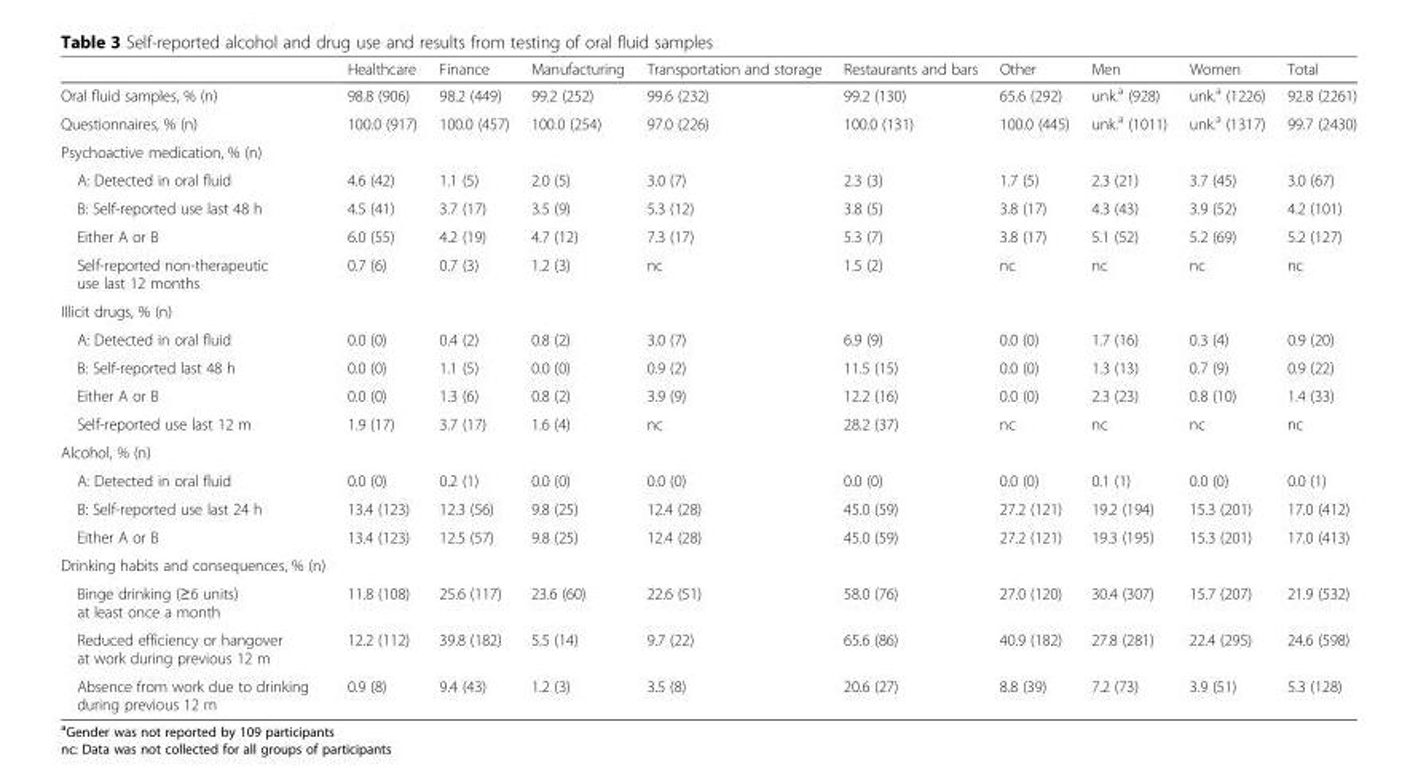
<table><thead><tr><td></td><td>Healthcare</td><td>Finance</td><td>Manufacturing</td><td>Transportation and storage</td><td>Restaurants and bars</td><td>Other</td><td>Men</td><td>Women</td><td>Total</td></tr></thead><tbody><tr><td>Oral fluid samples, % (n)</td><td>98.8 (906)</td><td>98.2 (449)</td><td>99.2 (252)</td><td>99.6 (232)</td><td>99.2 (130)</td><td>65.6 (292)</td><td>unk.<sup>a</sup> (928)</td><td>unk.<sup>a</sup> (1226)</td><td>92.8 (2261)</td></tr><tr><td>Questionnaires, % (n)</td><td>100.0 (917)</td><td>100.0 (457)</td><td>100.0 (254)</td><td>97.0 (226)</td><td>100.0 (131)</td><td>100.0 (445)</td><td>unk.<sup>a</sup> (1011)</td><td>unk.<sup>a</sup> (1317)</td><td>99.7 (2430)</td></tr><tr><td colspan="10">Psychoactive medication, % (n)</td></tr><tr><td>A: Detected in oral fluid</td><td>4.6 (42)</td><td>1.1 (5)</td><td>2.0 (5)</td><td>3.0 (7)</td><td>2.3 (3)</td><td>1.7 (5)</td><td>2.3 (21)</td><td>3.7 (45)</td><td>3.0 (67)</td></tr><tr><td>B: Self-reported use last 48 h</td><td>4.5 (41)</td><td>3.7 (17)</td><td>3.5 (9)</td><td>5.3 (12)</td><td>3.8 (5)</td><td>3.8 (17)</td><td>4.3 (43)</td><td>3.9 (52)</td><td>4.2 (101)</td></tr><tr><td>Either A or B</td><td>6.0 (55)</td><td>4.2 (19)</td><td>4.7 (12)</td><td>7.3 (17)</td><td>5.3 (7)</td><td>3.8 (17)</td><td>5.1 (52)</td><td>5.2 (69)</td><td>5.2 (127)</td></tr><tr><td>Self-reported non-therapeutic use last 12 months</td><td>0.7 (6)</td><td>0.7 (3)</td><td>1.2 (3)</td><td>nc</td><td>1.5 (2)</td><td>nc</td><td>nc</td><td>nc</td><td>nc</td></tr><tr><td colspan="10">Illicit drugs, % (n)</td></tr><tr><td>A: Detected in oral fluid</td><td>0.0 (0)</td><td>0.4 (2)</td><td>0.8 (2)</td><td>3.0 (7)</td><td>6.9 (9)</td><td>0.0 (0)</td><td>1.7 (16)</td><td>0.3 (4)</td><td>0.9 (20)</td></tr><tr><td>B: Self-reported last 48 h</td><td>0.0 (0)</td><td>1.1 (5)</td><td>0.0 (0)</td><td>0.9 (2)</td><td>11.5 (15)</td><td>0.0 (0)</td><td>1.3 (13)</td><td>0.7 (9)</td><td>0.9 (22)</td></tr><tr><td>Either A or B</td><td>0.0 (0)</td><td>1.3 (6)</td><td>0.8 (2)</td><td>3.9 (9)</td><td>12.2 (16)</td><td>0.0 (0)</td><td>2.3 (23)</td><td>0.8 (10)</td><td>1.4 (33)</td></tr><tr><td>Self-reported use last 12 m</td><td>1.9 (17)</td><td>3.7 (17)</td><td>1.6 (4)</td><td>nc</td><td>28.2 (37)</td><td>nc</td><td>nc</td><td>nc</td><td>nc</td></tr><tr><td colspan="10">Alcohol, % (n)</td></tr><tr><td>A: Detected in oral fluid</td><td>0.0 (0)</td><td>0.2 (1)</td><td>0.0 (0)</td><td>0.0 (0)</td><td>0.0 (0)</td><td>0.0 (0)</td><td>0.1 (1)</td><td>0.0 (0)</td><td>0.0 (1)</td></tr><tr><td>B: Self-reported use last 24 h</td><td>13.4 (123)</td><td>12.3 (56)</td><td>9.8 (25)</td><td>12.4 (28)</td><td>45.0 (59)</td><td>27.2 (121)</td><td>19.2 (194)</td><td>15.3 (201)</td><td>17.0 (412)</td></tr><tr><td>Either A or B</td><td>13.4 (123)</td><td>12.5 (57)</td><td>9.8 (25)</td><td>12.4 (28)</td><td>45.0 (59)</td><td>27.2 (121)</td><td>19.3 (195)</td><td>15.3 (201)</td><td>17.0 (413)</td></tr><tr><td colspan="10">Drinking habits and consequences, % (n)</td></tr><tr><td>Binge drinking (≥6 units) at least once a month</td><td>11.8 (108)</td><td>25.6 (117)</td><td>23.6 (60)</td><td>22.6 (51)</td><td>58.0 (76)</td><td>27.0 (120)</td><td>30.4 (307)</td><td>15.7 (207)</td><td>21.9 (532)</td></tr><tr><td>Reduced efficiency or hangover at work during previous 12 m</td><td>12.2 (112)</td><td>39.8 (182)</td><td>5.5 (14)</td><td>9.7 (22)</td><td>65.6 (86)</td><td>40.9 (182)</td><td>27.8 (281)</td><td>22.4 (295)</td><td>24.6 (598)</td></tr><tr><td>Absence from work due to drinking during previous 12 m</td><td>0.9 (8)</td><td>9.4 (43)</td><td>1.2 (3)</td><td>3.5 (8)</td><td>20.6 (27)</td><td>8.8 (39)</td><td>7.2 (73)</td><td>3.9 (51)</td><td>5.3 (128)</td></tr></tbody></table>